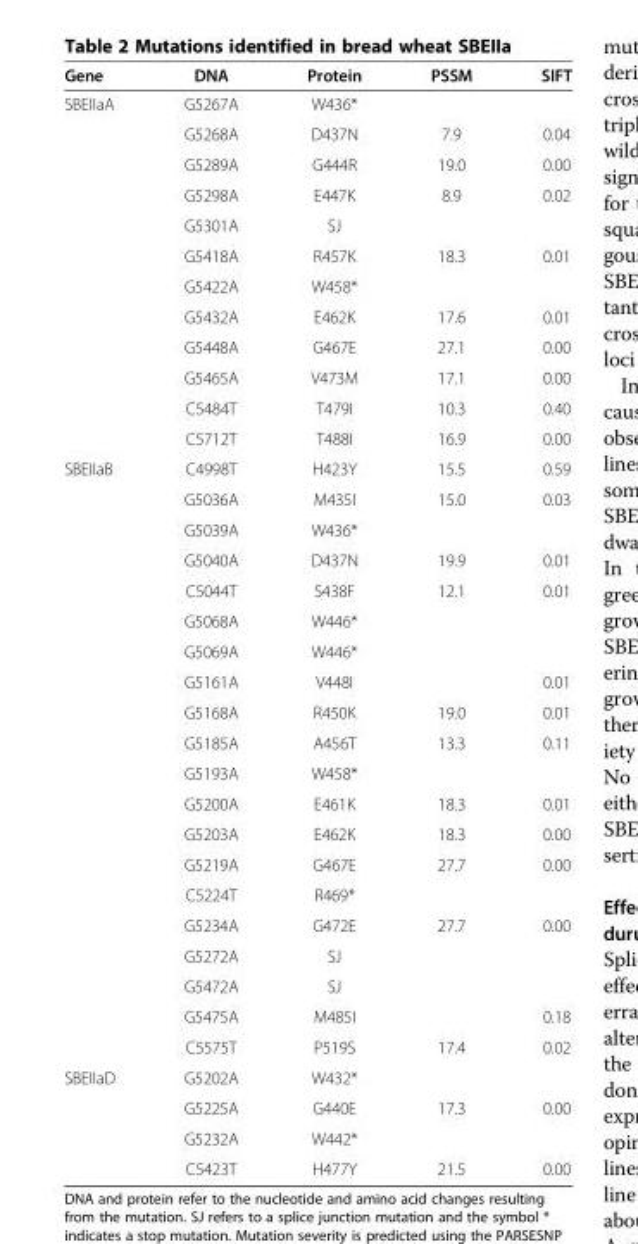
<table><thead><tr><td>Gene</td><td>DNA</td><td>Protein</td><td>PSSM</td><td>SIFT</td></tr></thead><tbody><tr><td rowspan="12">SBEIIaA</td><td>G5267A</td><td>W436*</td><td></td><td></td></tr><tr><td>G5268A</td><td>D437N</td><td>7.9</td><td>0.04</td></tr><tr><td>G5289A</td><td>G444R</td><td>19.0</td><td>0.00</td></tr><tr><td>G5298A</td><td>E447K</td><td>8.9</td><td>0.02</td></tr><tr><td>G5301A</td><td>SJ</td><td></td><td></td></tr><tr><td>G5418A</td><td>R457K</td><td>18.3</td><td>0.01</td></tr><tr><td>G5422A</td><td>W458*</td><td></td><td></td></tr><tr><td>G5432A</td><td>E462K</td><td>17.6</td><td>0.01</td></tr><tr><td>G5448A</td><td>G467E</td><td>27.1</td><td>0.00</td></tr><tr><td>G5465A</td><td>V473M</td><td>17.1</td><td>0.00</td></tr><tr><td>C5484T</td><td>T479I</td><td>10.3</td><td>0.40</td></tr><tr><td>C5712T</td><td>T488I</td><td>16.9</td><td>0.00</td></tr><tr><td rowspan="20">SBEIIaB</td><td>C4998T</td><td>H423Y</td><td>15.5</td><td>0.59</td></tr><tr><td>G5036A</td><td>M435I</td><td>15.0</td><td>0.03</td></tr><tr><td>G5039A</td><td>W436*</td><td></td><td></td></tr><tr><td>G5040A</td><td>D437N</td><td>19.9</td><td>0.01</td></tr><tr><td>C5044T</td><td>S438F</td><td>12.1</td><td>0.01</td></tr><tr><td>G5068A</td><td>W446*</td><td></td><td></td></tr><tr><td>G5069A</td><td>W446*</td><td></td><td></td></tr><tr><td>G5161A</td><td>V448I</td><td></td><td>0.01</td></tr><tr><td>G5168A</td><td>R450K</td><td>19.0</td><td>0.01</td></tr><tr><td>G5185A</td><td>A456T</td><td>13.3</td><td>0.11</td></tr><tr><td>G5193A</td><td>W458*</td><td></td><td></td></tr><tr><td>G5200A</td><td>E461K</td><td>18.3</td><td>0.01</td></tr><tr><td>G5203A</td><td>E462K</td><td>18.3</td><td>0.00</td></tr><tr><td>G5219A</td><td>G467E</td><td>27.7</td><td>0.00</td></tr><tr><td>C5224T</td><td>R469*</td><td></td><td></td></tr><tr><td>G5234A</td><td>G472E</td><td>27.7</td><td>0.00</td></tr><tr><td>G5272A</td><td>SJ</td><td></td><td></td></tr><tr><td>G5472A</td><td>SJ</td><td></td><td></td></tr><tr><td>G5475A</td><td>M485I</td><td></td><td>0.18</td></tr><tr><td>C5575T</td><td>P519S</td><td>17.4</td><td>0.02</td></tr><tr><td rowspan="4">SBEIIaD</td><td>G5202A</td><td>W432*</td><td></td><td></td></tr><tr><td>G5225A</td><td>G440E</td><td>17.3</td><td>0.00</td></tr><tr><td>G5232A</td><td>W442*</td><td></td><td></td></tr><tr><td>C5423T</td><td>H477Y</td><td>21.5</td><td>0.00</td></tr></tbody></table>